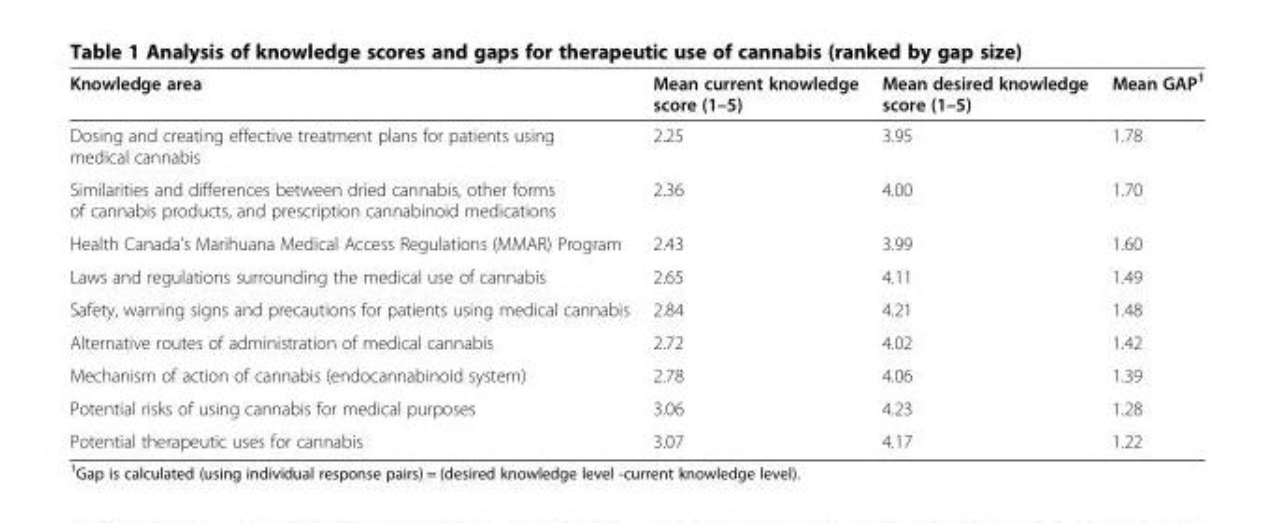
<table><thead><tr><td>Knowledge area</td><td>Mean current knowledge score (1–5)</td><td>Mean desired knowledge score (1–5)</td><td>Mean GAP<sup>1</sup></td></tr></thead><tbody><tr><td>Dosing and creating effective treatment plans for patients using medical cannabis</td><td>2.25</td><td>3.95</td><td>1.78</td></tr><tr><td>Similarities and differences between dried cannabis, other forms of cannabis products, and prescription cannabinoid medications</td><td>2.36</td><td>4.00</td><td>1.70</td></tr><tr><td>Health Canada’s Marihuana Medical Access Regulations (MMAR) Program</td><td>2.43</td><td>3.99</td><td>1.60</td></tr><tr><td>Laws and regulations surrounding the medical use of cannabis</td><td>2.65</td><td>4.11</td><td>1.49</td></tr><tr><td>Safety, warning signs and precautions for patients using medical cannabis</td><td>2.84</td><td>4.21</td><td>1.48</td></tr><tr><td>Alternative routes of administration of medical cannabis</td><td>2.72</td><td>4.02</td><td>1.42</td></tr><tr><td>Mechanism of action of cannabis (endocannabinoid system)</td><td>2.78</td><td>4.06</td><td>1.39</td></tr><tr><td>Potential risks of using cannabis for medical purposes</td><td>3.06</td><td>4.23</td><td>1.28</td></tr><tr><td>Potential therapeutic uses for cannabis</td><td>3.07</td><td>4.17</td><td>1.22</td></tr></tbody></table>